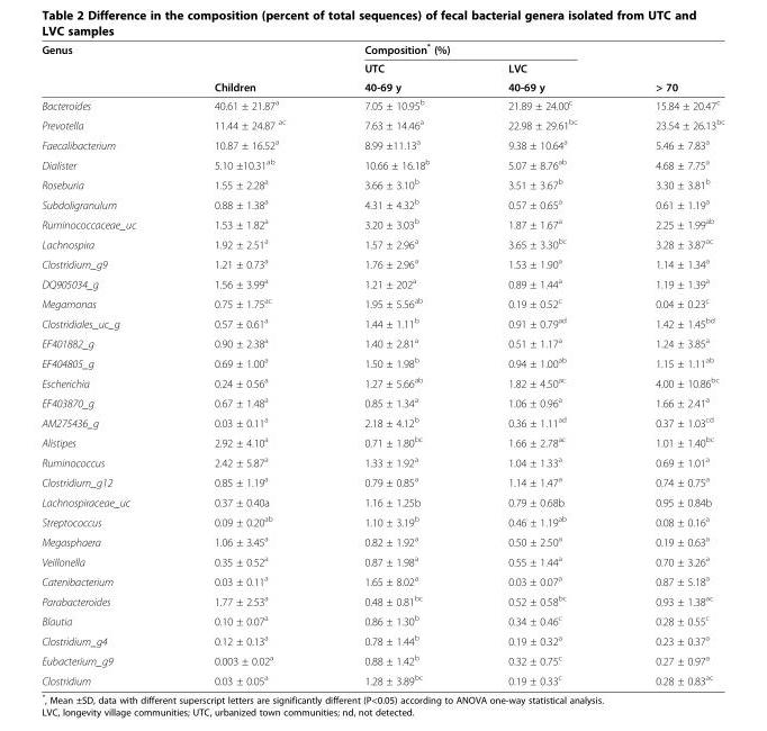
<table><thead><tr><td rowspan="3">Genus</td><td rowspan="3">Children</td><td colspan="2">Composition* (%)</td><td rowspan="3">&gt; 70</td></tr><tr><td rowspan="2">UTC 40-69 y</td><td rowspan="2">LVC 40-69 y</td></tr><tr></tr></thead><tbody><tr><td>Bacteroides</td><td>40.61 ± 21.87<sup>a</sup></td><td>7.05 ± 10.95<sup>b</sup></td><td>21.89 ± 24.00<sup>c</sup></td><td>15.84 ± 20.47<sup>c</sup></td></tr><tr><td>Prevotella</td><td>11.44 ± 24.87 <sup>ac</sup></td><td>7.63 ± 14.46<sup>a</sup></td><td>22.98 ± 29.61<sup>bc</sup></td><td>23.54 ± 26.13<sup>bc</sup></td></tr><tr><td>Faecalibacterium</td><td>10.87 ± 16.52<sup>a</sup></td><td>8.99 ±11.13<sup>a</sup></td><td>9.38 ± 10.64<sup>a</sup></td><td>5.46 ± 7.83<sup>a</sup></td></tr><tr><td>Dialister</td><td>5.10 ±10.31<sup>ab</sup></td><td>10.66 ± 16.18<sup>b</sup></td><td>5.07 ± 8.76<sup>ab</sup></td><td>4.68 ± 7.75<sup>a</sup></td></tr><tr><td>Roseburia</td><td>1.55 ± 2.28<sup>a</sup></td><td>3.66 ± 3.10<sup>b</sup></td><td>3.51 ± 3.67<sup>b</sup></td><td>3.30 ± 3.81<sup>b</sup></td></tr><tr><td>Subdoligranulum</td><td>0.88 ± 1.38<sup>a</sup></td><td>4.31 ± 4.32<sup>b</sup></td><td>0.57 ± 0.65<sup>a</sup></td><td>0.61 ± 1.19<sup>a</sup></td></tr><tr><td>Ruminococcaceae_uc</td><td>1.53 ± 1.82<sup>a</sup></td><td>3.20 ± 3.03<sup>b</sup></td><td>1.87 ± 1.67<sup>a</sup></td><td>2.25 ± 1.99<sup>ab</sup></td></tr><tr><td>Lachnospira</td><td>1.92 ± 2.51<sup>a</sup></td><td>1.57 ± 2.96<sup>a</sup></td><td>3.65 ± 3.30<sup>bc</sup></td><td>3.28 ± 3.87<sup>ac</sup></td></tr><tr><td>Clostridium_g9</td><td>1.21 ± 0.73<sup>a</sup></td><td>1.76 ± 2.96<sup>a</sup></td><td>1.53 ± 1.90<sup>a</sup></td><td>1.14 ± 1.34<sup>a</sup></td></tr><tr><td>DQ905034_g</td><td>1.56 ± 3.99<sup>a</sup></td><td>1.21 ± 202<sup>a</sup></td><td>0.89 ± 1.44<sup>a</sup></td><td>1.19 ± 1.39<sup>a</sup></td></tr><tr><td>Megamonas</td><td>0.75 ± 1.75<sup>ac</sup></td><td>1.95 ± 5.56<sup>ab</sup></td><td>0.19 ± 0.52<sup>c</sup></td><td>0.04 ± 0.23<sup>c</sup></td></tr><tr><td>Clostridiales_uc_g</td><td>0.57 ± 0.61<sup>a</sup></td><td>1.44 ± 1.11<sup>b</sup></td><td>0.91 ± 0.79<sup>ad</sup></td><td>1.42 ± 1.45<sup>bd</sup></td></tr><tr><td>EF401882_g</td><td>0.90 ± 2.38<sup>a</sup></td><td>1.40 ± 2.81<sup>a</sup></td><td>0.51 ± 1.17<sup>a</sup></td><td>1.24 ± 3.85<sup>a</sup></td></tr><tr><td>EF404805_g</td><td>0.69 ± 1.00<sup>a</sup></td><td>1.50 ± 1.98<sup>b</sup></td><td>0.94 ± 1.00<sup>ab</sup></td><td>1.15 ± 1.11<sup>ab</sup></td></tr><tr><td>Escherichia</td><td>0.24 ± 0.56<sup>a</sup></td><td>1.27 ± 5.66<sup>ab</sup></td><td>1.82 ± 4.50<sup>ac</sup></td><td>4.00 ± 10.86<sup>bc</sup></td></tr><tr><td>EF403870_g</td><td>0.67 ± 1.48<sup>a</sup></td><td>0.85 ± 1.34<sup>a</sup></td><td>1.06 ± 0.96<sup>a</sup></td><td>1.66 ± 2.41<sup>a</sup></td></tr><tr><td>AM275436_g</td><td>0.03 ± 0.11<sup>a</sup></td><td>2.18 ± 4.12<sup>b</sup></td><td>0.36 ± 1.11<sup>ad</sup></td><td>0.37 ± 1.03<sup>cd</sup></td></tr><tr><td>Alistipes</td><td>2.92 ± 4.10<sup>a</sup></td><td>0.71 ± 1.80<sup>bc</sup></td><td>1.66 ± 2.78<sup>ac</sup></td><td>1.01 ± 1.40<sup>bc</sup></td></tr><tr><td>Ruminococcus</td><td>2.42 ± 5.87<sup>a</sup></td><td>1.33 ± 1.92<sup>a</sup></td><td>1.04 ± 1.33<sup>a</sup></td><td>0.69 ± 1.01<sup>a</sup></td></tr><tr><td>Clostridium_g12</td><td>0.85 ± 1.19<sup>a</sup></td><td>0.79 ± 0.85<sup>a</sup></td><td>1.14 ± 1.47<sup>a</sup></td><td>0.74 ± 0.75<sup>a</sup></td></tr><tr><td>Lachnospiraceae_uc</td><td>0.37 ± 0.40a</td><td>1.16 ± 1.25b</td><td>0.79 ± 0.68b</td><td>0.95 ± 0.84b</td></tr><tr><td>Streptococcus</td><td>0.09 ± 0.20<sup>ab</sup></td><td>1.10 ± 3.19<sup>b</sup></td><td>0.46 ± 1.19<sup>ab</sup></td><td>0.08 ± 0.16<sup>a</sup></td></tr><tr><td>Megasphaera</td><td>1.06 ± 3.45<sup>a</sup></td><td>0.82 ± 1.92<sup>a</sup></td><td>0.50 ± 2.50<sup>a</sup></td><td>0.19 ± 0.63<sup>a</sup></td></tr><tr><td>Veillonella</td><td>0.35 ± 0.52<sup>a</sup></td><td>0.87 ± 1.98<sup>a</sup></td><td>0.55 ± 1.44<sup>a</sup></td><td>0.70 ± 3.26<sup>a</sup></td></tr><tr><td>Catenibacterium</td><td>0.03 ± 0.11<sup>a</sup></td><td>1.65 ± 8.02<sup>a</sup></td><td>0.03 ± 0.07<sup>a</sup></td><td>0.87 ± 5.18<sup>a</sup></td></tr><tr><td>Parabacteroides</td><td>1.77 ± 2.53<sup>a</sup></td><td>0.48 ± 0.81<sup>bc</sup></td><td>0.52 ± 0.58<sup>bc</sup></td><td>0.93 ± 1.38<sup>ac</sup></td></tr><tr><td>Blautia</td><td>0.10 ± 0.07<sup>a</sup></td><td>0.86 ± 1.30<sup>b</sup></td><td>0.34 ± 0.46<sup>c</sup></td><td>0.28 ± 0.55<sup>c</sup></td></tr><tr><td>Clostridium_g4</td><td>0.12 ± 0.13<sup>a</sup></td><td>0.78 ± 1.44<sup>b</sup></td><td>0.19 ± 0.32<sup>a</sup></td><td>0.23 ± 0.37<sup>a</sup></td></tr><tr><td>Eubacterium_g9</td><td>0.003 ± 0.02<sup>a</sup></td><td>0.88 ± 1.42<sup>b</sup></td><td>0.32 ± 0.75<sup>c</sup></td><td>0.27 ± 0.97<sup>a</sup></td></tr><tr><td>Clostridium</td><td>0.03 ± 0.05<sup>a</sup></td><td>1.28 ± 3.89<sup>bc</sup></td><td>0.19 ± 0.33<sup>c</sup></td><td>0.28 ± 0.83<sup>ac</sup></td></tr></tbody></table>